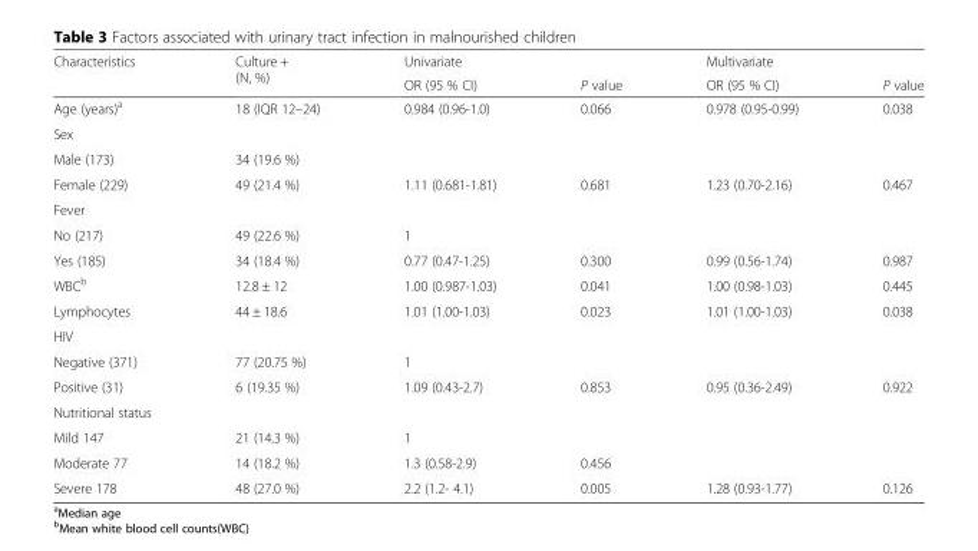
<table><thead><tr><td rowspan="2">Characteristics</td><td rowspan="2">Culture + (N, %)</td><td colspan="2">Univariate</td><td colspan="2">Multivariate</td></tr><tr><td>OR (95 % CI)</td><td>P value</td><td>OR (95 % CI)</td><td>P value</td></tr></thead><tbody><tr><td>Age (years)<sup>a</sup></td><td>18 (IQR 12–24)</td><td>0.984 (0.96-1.0)</td><td>0.066</td><td>0.978 (0.95-0.99)</td><td>0.038</td></tr><tr><td colspan="6">Sex</td></tr><tr><td>Male (173)</td><td>34 (19.6 %)</td><td></td><td></td><td></td><td></td></tr><tr><td>Female (229)</td><td>49 (21.4 %)</td><td>1.11 (0.681-1.81)</td><td>0.681</td><td>1.23 (0.70-2.16)</td><td>0.467</td></tr><tr><td colspan="6">Fever</td></tr><tr><td>No (217)</td><td>49 (22.6 %)</td><td>1</td><td></td><td></td><td></td></tr><tr><td>Yes (185)</td><td>34 (18.4 %)</td><td>0.77 (0.47-1.25)</td><td>0.300</td><td>0.99 (0.56-1.74)</td><td>0.987</td></tr><tr><td>WBC<sup>b</sup></td><td>12.8 ± 12</td><td>1.00 (0.987-1.03)</td><td>0.041</td><td>1.00 (0.98-1.03)</td><td>0.445</td></tr><tr><td>Lymphocytes</td><td>44 ± 18.6</td><td>1.01 (1.00-1.03)</td><td>0.023</td><td>1.01 (1.00-1.03)</td><td>0.038</td></tr><tr><td colspan="6">HIV</td></tr><tr><td>Negative (371)</td><td>77 (20.75 %)</td><td>1</td><td></td><td></td><td></td></tr><tr><td>Positive (31)</td><td>6 (19.35 %)</td><td>1.09 (0.43-2.7)</td><td>0.853</td><td>0.95 (0.36-2.49)</td><td>0.922</td></tr><tr><td colspan="6">Nutritional status</td></tr><tr><td>Mild 147</td><td>21 (14.3 %)</td><td>1</td><td></td><td></td><td></td></tr><tr><td>Moderate 77</td><td>14 (18.2 %)</td><td>1.3 (0.58-2.9)</td><td>0.456</td><td></td><td></td></tr><tr><td>Severe 178</td><td>48 (27.0 %)</td><td>2.2 (1.2- 4.1)</td><td>0.005</td><td>1.28 (0.93-1.77)</td><td>0.126</td></tr></tbody></table>